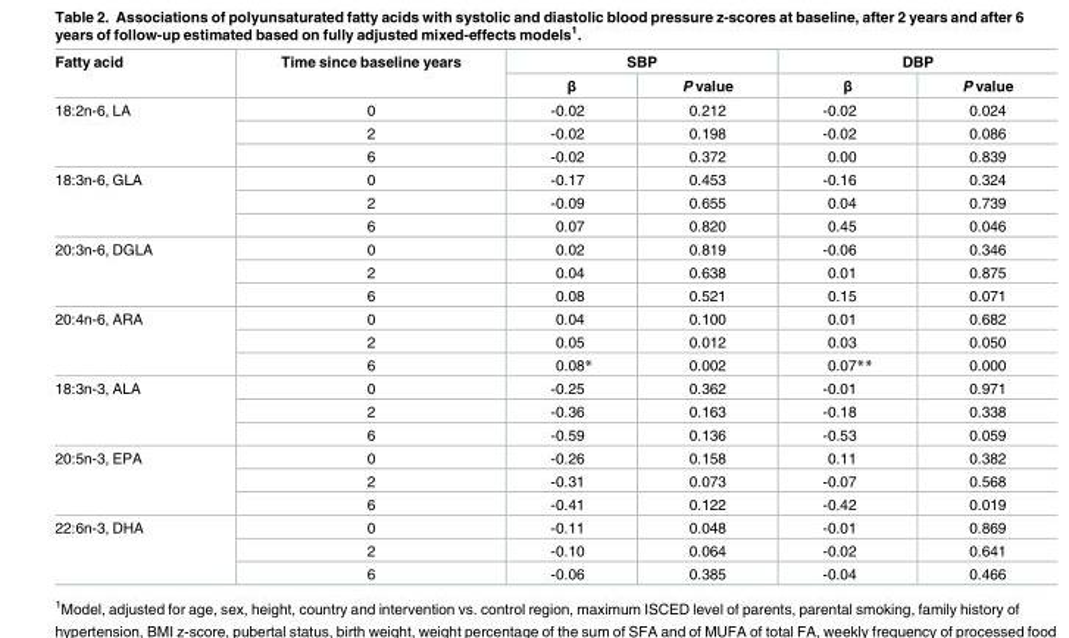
<table><thead><tr><td rowspan="2">Fatty acid</td><td rowspan="2">Time since baseline years</td><td colspan="2">SBP</td><td colspan="2">DBP</td></tr><tr><td>β</td><td>P value</td><td>β</td><td>P value</td></tr></thead><tbody><tr><td rowspan="3">18:2n-6, LA</td><td>0</td><td>-0.02</td><td>0.212</td><td>-0.02</td><td>0.024</td></tr><tr><td>2</td><td>-0.02</td><td>0.198</td><td>-0.02</td><td>0.086</td></tr><tr><td>6</td><td>-0.02</td><td>0.372</td><td>0.00</td><td>0.839</td></tr><tr><td rowspan="3">18:3n-6, GLA</td><td>0</td><td>-0.17</td><td>0.453</td><td>-0.16</td><td>0.324</td></tr><tr><td>2</td><td>-0.09</td><td>0.655</td><td>0.04</td><td>0.739</td></tr><tr><td>6</td><td>0.07</td><td>0.820</td><td>0.45</td><td>0.046</td></tr><tr><td rowspan="3">20:3n-6, DGLA</td><td>0</td><td>0.02</td><td>0.819</td><td>-0.06</td><td>0.346</td></tr><tr><td>2</td><td>0.04</td><td>0.638</td><td>0.01</td><td>0.875</td></tr><tr><td>6</td><td>0.08</td><td>0.521</td><td>0.15</td><td>0.071</td></tr><tr><td rowspan="3">20:4n-6, ARA</td><td>0</td><td>0.04</td><td>0.100</td><td>0.01</td><td>0.682</td></tr><tr><td>2</td><td>0.05</td><td>0.012</td><td>0.03</td><td>0.050</td></tr><tr><td>6</td><td>0.08*</td><td>0.002</td><td>0.07**</td><td>0.000</td></tr><tr><td rowspan="3">18:3n-3, ALA</td><td>0</td><td>-0.25</td><td>0.362</td><td>-0.01</td><td>0.971</td></tr><tr><td>2</td><td>-0.36</td><td>0.163</td><td>-0.18</td><td>0.338</td></tr><tr><td>6</td><td>-0.59</td><td>0.136</td><td>-0.53</td><td>0.059</td></tr><tr><td rowspan="3">20:5n-3, EPA</td><td>0</td><td>-0.26</td><td>0.158</td><td>0.11</td><td>0.382</td></tr><tr><td>2</td><td>-0.31</td><td>0.073</td><td>-0.07</td><td>0.568</td></tr><tr><td>6</td><td>-0.41</td><td>0.122</td><td>-0.42</td><td>0.019</td></tr><tr><td rowspan="3">22:6n-3, DHA</td><td>0</td><td>-0.11</td><td>0.048</td><td>-0.01</td><td>0.869</td></tr><tr><td>2</td><td>-0.10</td><td>0.064</td><td>-0.02</td><td>0.641</td></tr><tr><td>6</td><td>-0.06</td><td>0.385</td><td>-0.04</td><td>0.466</td></tr></tbody></table>